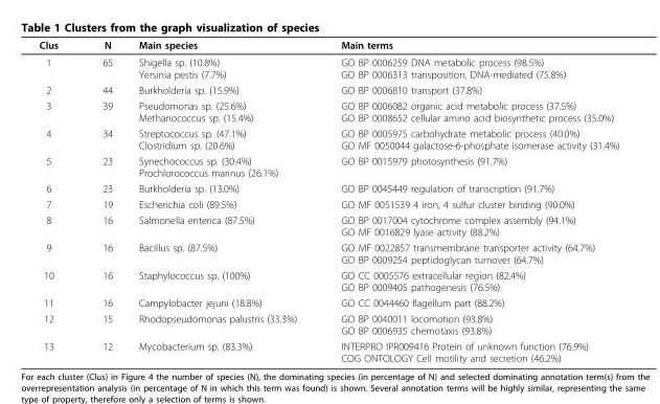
<table><thead><tr><td>Clus</td><td>N</td><td>Main species</td><td>Main terms</td></tr></thead><tbody><tr><td>1</td><td>65</td><td>Shigella sp. (10.8%) Yersinia pestis (7.7%)</td><td>GO BP 0006259 DNA metabolic process (98.5%) GO BP 0006313 transposition, DNA-mediated (75.8%)</td></tr><tr><td>2</td><td>44</td><td>Burkholderia sp. (15.9%)</td><td>GO BP 0006810 transport (37.8%)</td></tr><tr><td>3</td><td>39</td><td>Pseudomonas sp. (25.6%) Methanococcus sp. (15.4%)</td><td>GO BP 0006082 organic acid metabolic process (37.5%) GO BP 0008652 cellular amino acid biosynthetic process (35.0%)</td></tr><tr><td>4</td><td>34</td><td>Streptococcus sp. (47.1%) Clostridium sp. (20.6%)</td><td>GO BP 0005975 carbohydrate metabolic process (40.0%) GO MF 0050044 galactose-6-phosphate isomerase activity (31.4%)</td></tr><tr><td>5</td><td>23</td><td>Synechococcus sp. (30.4%) Prochlorococcus marinus (26.1%)</td><td>GO BP 0015979 photosynthesis (91.7%)</td></tr><tr><td>6</td><td>23</td><td>Burkholderia sp. (13.0%)</td><td>GO BP 0045449 regulation of transcription (91.7%)</td></tr><tr><td>7</td><td>19</td><td>Escherichia coli (89.5%)</td><td>GO MF 0051539 4 iron, 4 sulfur cluster binding (90.0%)</td></tr><tr><td>8</td><td>16</td><td>Salmonella enterica (87.5%)</td><td>GO BP 0017004 cytochrome complex assembly (94.1%) GO MF 0016829 lyase activity (88.2%)</td></tr><tr><td>9</td><td>16</td><td>Bacillus sp. (87.5%)</td><td>GO MF 0022857 transmembrane transporter activity (64.7%) GO BP 0009254 peptidoglycan turnover (64.7%)</td></tr><tr><td>10</td><td>16</td><td>Staphylococcus sp. (100%)</td><td>GO CC 0005576 extracellular region (82.4%) GO BP 0009405 pathogenesis (76.5%)</td></tr><tr><td>11</td><td>16</td><td>Campylobacter jejuni (18.8%)</td><td>GO CC 0044460 flagellum part (88.2%)</td></tr><tr><td>12</td><td>15</td><td>Rhodopseudomonas palustris (33.3%)</td><td>GO BP 0040011 locomotion (93.8%) GO BP 0006935 chemotaxis (93.8%)</td></tr><tr><td>13</td><td>12</td><td>Mycobacterium sp. (83.3%)</td><td>INTERPRO IPR009416 Protein of unknown function (76.9%) COG ONTOLOGY Cell motility and secretion (46.2%)</td></tr></tbody></table>